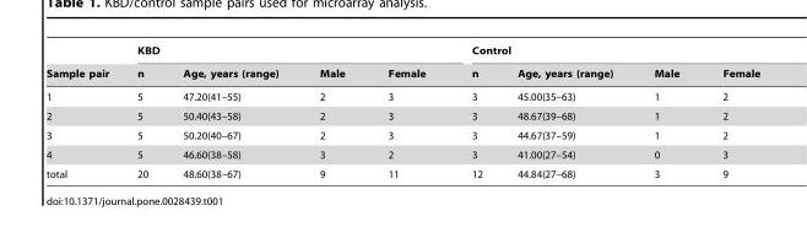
<table><thead><tr><td rowspan="2">Sample pair</td><td colspan="4">KBD</td><td colspan="4">Control</td></tr><tr><td>n</td><td>Age, years (range)</td><td>Male</td><td>Female</td><td>n</td><td>Age, years (range)</td><td>Male</td><td>Female</td></tr></thead><tbody><tr><td>1</td><td>5</td><td>47.20(41–55)</td><td>2</td><td>3</td><td>3</td><td>45.00(35–63)</td><td>1</td><td>2</td></tr><tr><td>2</td><td>5</td><td>50.40(43–58)</td><td>2</td><td>3</td><td>3</td><td>48.67(39–68)</td><td>1</td><td>2</td></tr><tr><td>3</td><td>5</td><td>50.20(40–67)</td><td>2</td><td>3</td><td>3</td><td>44.67(37–59)</td><td>1</td><td>2</td></tr><tr><td>4</td><td>5</td><td>46.60(38–58)</td><td>3</td><td>2</td><td>3</td><td>41.00(27–54)</td><td>0</td><td>3</td></tr><tr><td>total</td><td>20</td><td>48.60(38–67)</td><td>9</td><td>11</td><td>12</td><td>44.84(27–68)</td><td>3</td><td>9</td></tr></tbody></table>